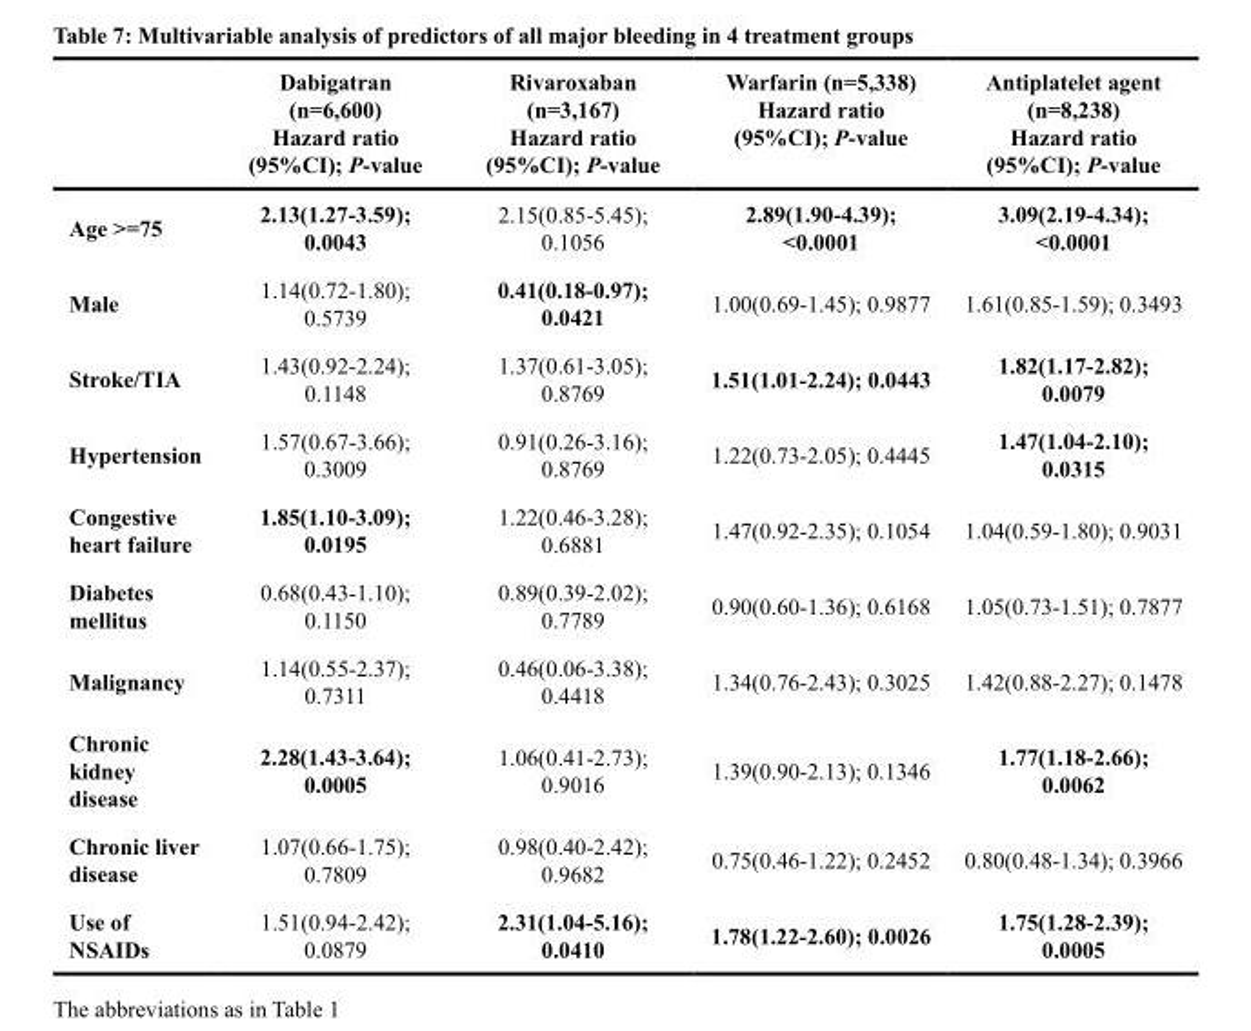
<table><thead><tr><td></td><td>Dabigatran (n=6,600) Hazard ratio (95%CI); P-value</td><td>Rivaroxaban (n=3,167) Hazard ratio (95%CI); P-value</td><td>Warfarin (n=5,338) Hazard ratio (95%CI); P-value</td><td>Antiplatelet agent (n=8,238) Hazard ratio (95%CI); P-value</td></tr></thead><tbody><tr><td>Age &gt;=75</td><td>2.13(1.27-3.59); 0.0043</td><td>2.15(0.85-5.45); 0.1056</td><td>2.89(1.90-4.39); &lt;0.0001</td><td>3.09(2.19-4.34); &lt;0.0001</td></tr><tr><td>Male</td><td>1.14(0.72-1.80); 0.5739</td><td>0.41(0.18-0.97); 0.0421</td><td>1.00(0.69-1.45); 0.9877</td><td>1.61(0.85-1.59); 0.3493</td></tr><tr><td>Stroke/TIA</td><td>1.43(0.92-2.24); 0.1148</td><td>1.37(0.61-3.05); 0.8769</td><td>1.51(1.01-2.24); 0.0443</td><td>1.82(1.17-2.82); 0.0079</td></tr><tr><td>Hypertension</td><td>1.57(0.67-3.66); 0.3009</td><td>0.91(0.26-3.16); 0.8769</td><td>1.22(0.73-2.05); 0.4445</td><td>1.47(1.04-2.10); 0.0315</td></tr><tr><td>Congestive heart failure</td><td>1.85(1.10-3.09); 0.0195</td><td>1.22(0.46-3.28); 0.6881</td><td>1.47(0.92-2.35); 0.1054</td><td>1.04(0.59-1.80); 0.9031</td></tr><tr><td>Diabetes mellitus</td><td>0.68(0.43-1.10); 0.1150</td><td>0.89(0.39-2.02); 0.7789</td><td>0.90(0.60-1.36); 0.6168</td><td>1.05(0.73-1.51); 0.7877</td></tr><tr><td>Malignancy</td><td>1.14(0.55-2.37); 0.7311</td><td>0.46(0.06-3.38); 0.4418</td><td>1.34(0.76-2.43); 0.3025</td><td>1.42(0.88-2.27); 0.1478</td></tr><tr><td>Chronic kidney disease</td><td>2.28(1.43-3.64); 0.0005</td><td>1.06(0.41-2.73); 0.9016</td><td>1.39(0.90-2.13); 0.1346</td><td>1.77(1.18-2.66); 0.0062</td></tr><tr><td>Chronic liver disease</td><td>1.07(0.66-1.75); 0.7809</td><td>0.98(0.40-2.42); 0.9682</td><td>0.75(0.46-1.22); 0.2452</td><td>0.80(0.48-1.34); 0.3966</td></tr><tr><td>Use of NSAIDs</td><td>1.51(0.94-2.42); 0.0879</td><td>2.31(1.04-5.16); 0.0410</td><td>1.78(1.22-2.60); 0.0026</td><td>1.75(1.28-2.39); 0.0005</td></tr></tbody></table>